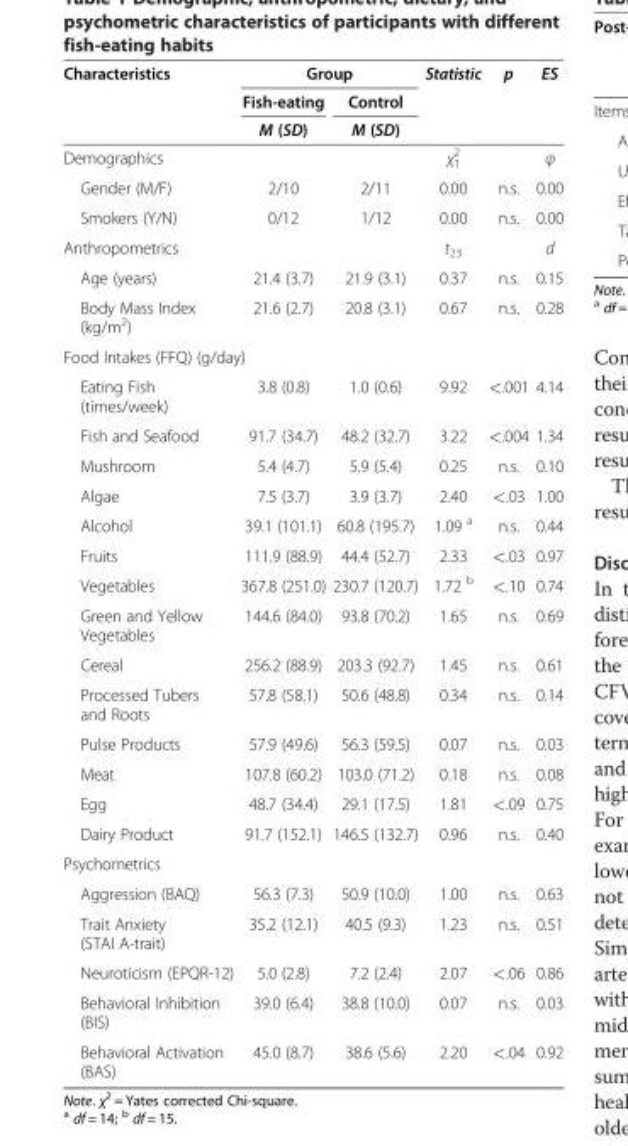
<table><thead><tr><td rowspan="3">Characteristics</td><td colspan="2">Group</td><td rowspan="3">Statistic</td><td rowspan="3">p</td><td rowspan="3">ES</td></tr><tr><td rowspan="2">Fish-eating M (SD)</td><td rowspan="2">Control M (SD)</td></tr><tr></tr></thead><tbody><tr><td colspan="3">Demographics</td><td>χ<sub>1</sub> <sup>2</sup></td><td></td><td>φ</td></tr><tr><td>Gender (M/F)</td><td>2/10</td><td>2/11</td><td>0.00</td><td>n.s.</td><td>0.00</td></tr><tr><td>Smokers (Y/N)</td><td>0/12</td><td>1/12</td><td>0.00</td><td>n.s.</td><td>0.00</td></tr><tr><td colspan="3">Anthropometrics</td><td>t<sub>23</sub></td><td></td><td>d</td></tr><tr><td>Age (years)</td><td>21.4 (3.7)</td><td>21.9 (3.1)</td><td>0.37</td><td>n.s.</td><td>0.15</td></tr><tr><td>Body Mass Index (kg/m<sup>2</sup>)</td><td>21.6 (2.7)</td><td>20.8 (3.1)</td><td>0.67</td><td>n.s.</td><td>0.28</td></tr><tr><td colspan="6">Food Intakes (FFQ) (g/day)</td></tr><tr><td>Eating Fish (times/week)</td><td>3.8 (0.8)</td><td>1.0 (0.6)</td><td>9.92</td><td>&lt;.001</td><td>4.14</td></tr><tr><td>Fish and Seafood</td><td>91.7 (34.7)</td><td>48.2 (32.7)</td><td>3.22</td><td>&lt;.004</td><td>1.34</td></tr><tr><td>Mushroom</td><td>5.4 (4.7)</td><td>5.9 (5.4)</td><td>0.25</td><td>n.s.</td><td>0.10</td></tr><tr><td>Algae</td><td>7.5 (3.7)</td><td>3.9 (3.7)</td><td>2.40</td><td>&lt;.03</td><td>1.00</td></tr><tr><td>Alcohol</td><td>39.1 (101.1)</td><td>60.8 (195.7)</td><td>1.09 <sup>a</sup></td><td>n.s.</td><td>0.44</td></tr><tr><td>Fruits</td><td>111.9 (88.9)</td><td>44.4 (52.7)</td><td>2.33</td><td>&lt;.03</td><td>0.97</td></tr><tr><td>Vegetables</td><td>367.8 (251.0)</td><td>230.7 (120.7)</td><td>1.72 <sup>b</sup></td><td>&lt;.10</td><td>0.74</td></tr><tr><td>Green and Yellow Vegetables</td><td>144.6 (84.0)</td><td>93.8 (70.2)</td><td>1.65</td><td>n.s.</td><td>0.69</td></tr><tr><td>Cereal</td><td>256.2 (88.9)</td><td>203.3 (92.7)</td><td>1.45</td><td>n.s.</td><td>0.61</td></tr><tr><td>Processed Tubers and Roots</td><td>57.8 (58.1)</td><td>50.6 (48.8)</td><td>0.34</td><td>n.s.</td><td>0.14</td></tr><tr><td>Pulse Products</td><td>57.9 (49.6)</td><td>56.3 (59.5)</td><td>0.07</td><td>n.s.</td><td>0.03</td></tr><tr><td>Meat</td><td>107.8 (60.2)</td><td>103.0 (71.2)</td><td>0.18</td><td>n.s.</td><td>0.08</td></tr><tr><td>Egg</td><td>48.7 (34.4)</td><td>29.1 (17.5)</td><td>1.81</td><td>&lt;.09</td><td>0.75</td></tr><tr><td>Dairy Product</td><td>91.7 (152.1)</td><td>146.5 (132.7)</td><td>0.96</td><td>n.s.</td><td>0.40</td></tr><tr><td colspan="6">Psychometrics</td></tr><tr><td>Aggression (BAQ)</td><td>56.3 (7.3)</td><td>50.9 (10.0)</td><td>1.00</td><td>n.s.</td><td>0.63</td></tr><tr><td>Trait Anxiety (STAI A-trait)</td><td>35.2 (12.1)</td><td>40.5 (9.3)</td><td>1.23</td><td>n.s.</td><td>0.51</td></tr><tr><td>Neuroticism (EPQR-12)</td><td>5.0 (2.8)</td><td>7.2 (2.4)</td><td>2.07</td><td>&lt;.06</td><td>0.86</td></tr><tr><td>Behavioral Inhibition (BIS)</td><td>39.0 (6.4)</td><td>38.8 (10.0)</td><td>0.07</td><td>n.s.</td><td>0.03</td></tr><tr><td>Behavioral Activation (BAS)</td><td>45.0 (8.7)</td><td>38.6 (5.6)</td><td>2.20</td><td>&lt;.04</td><td>0.92</td></tr></tbody></table>